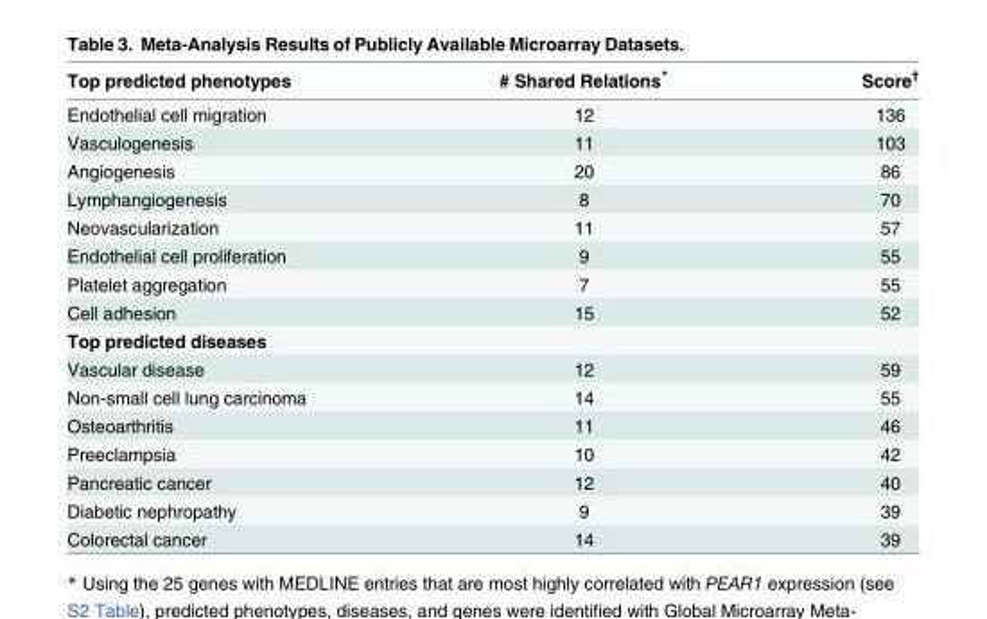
<table><thead><tr><td>Top predicted phenotypes</td><td># Shared Relations*</td><td>Score<sup>†</sup></td></tr></thead><tbody><tr><td>Endothelial cell migration</td><td>12</td><td>136</td></tr><tr><td>Vasculogenesis</td><td>11</td><td>103</td></tr><tr><td>Angiogenesis</td><td>20</td><td>86</td></tr><tr><td>Lymphangiogenesis</td><td>8</td><td>70</td></tr><tr><td>Neovascularization</td><td>11</td><td>57</td></tr><tr><td>Endothelial cell proliferation</td><td>9</td><td>55</td></tr><tr><td>Platelet aggregation</td><td>7</td><td>55</td></tr><tr><td>Cell adhesion</td><td>15</td><td>52</td></tr><tr><td colspan="3">Top predicted diseases</td></tr><tr><td>Vascular disease</td><td>12</td><td>59</td></tr><tr><td>Non-small cell lung carcinoma</td><td>14</td><td>55</td></tr><tr><td>Osteoarthritis</td><td>11</td><td>46</td></tr><tr><td>Preeclampsia</td><td>10</td><td>42</td></tr><tr><td>Pancreatic cancer</td><td>12</td><td>40</td></tr><tr><td>Diabetic nephropathy</td><td>9</td><td>39</td></tr><tr><td>Colorectal cancer</td><td>14</td><td>39</td></tr></tbody></table>